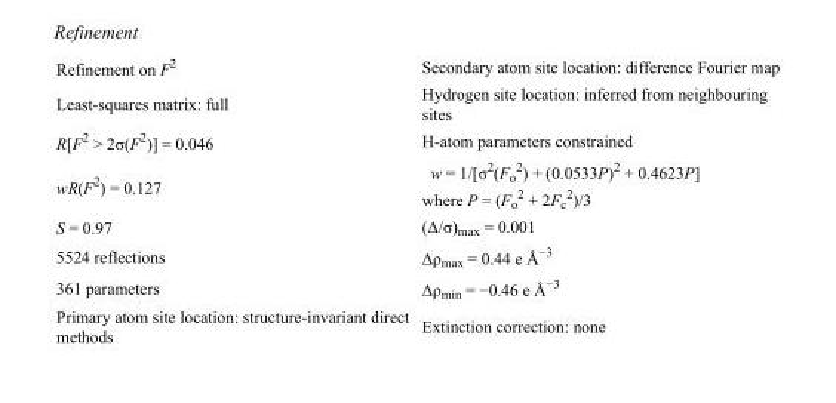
<table><tbody><tr><td>Refinement on F<sup>2</sup></td><td>Secondary atom site location: difference Fourier map</td></tr><tr><td>Least-squares matrix: full</td><td>Hydrogen site location: inferred from neighbouring sites</td></tr><tr><td>R[F<sup>2</sup> &gt; 2σ(F<sup>2</sup>)] = 0.046</td><td>H-atom parameters constrained</td></tr><tr><td>wR(F<sup>2</sup>) = 0.127</td><td>w = 1/[σ<sup>2</sup>(F<sub>o</sub> <sup>2</sup>) + (0.0533P)<sup>2</sup> + 0.4623P] where P = (F<sub>o</sub> <sup>2</sup> + 2F<sub>c</sub> <sup>2</sup>)/3</td></tr><tr><td>S = 0.97</td><td>(Δ/σ)<sub>max</sub> = 0.001</td></tr><tr><td>5524 reflections</td><td>Δρ<sub>max</sub> = 0.44 e Å<sup>−3</sup></td></tr><tr><td>361 parameters</td><td>Δρ<sub>min</sub> = −0.46 e Å<sup>−3</sup></td></tr><tr><td>Primary atom site location: structure-invariant direct methods</td><td>Extinction correction: none</td></tr></tbody></table>